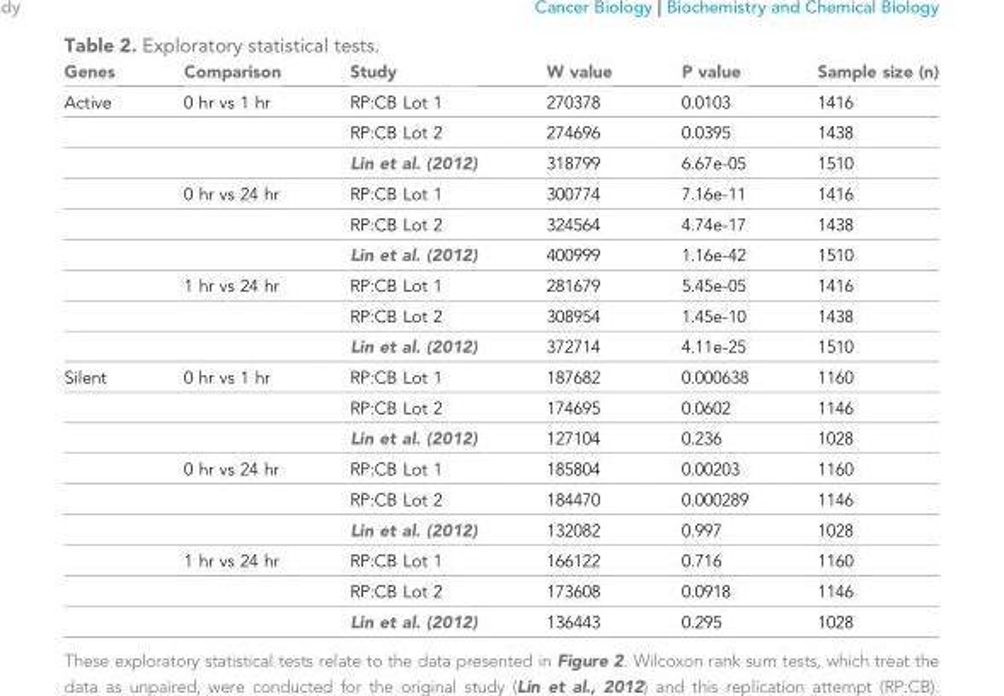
<table><thead><tr><td>Genes</td><td>Comparison</td><td>Study</td><td>W value</td><td>P value</td><td>Sample size (n)</td></tr></thead><tbody><tr><td rowspan="9">Active</td><td>0 hr vs 1 hr</td><td>RP:CB Lot 1</td><td>270378</td><td>0.0103</td><td>1416</td></tr><tr><td></td><td>RP:CB Lot 2</td><td>274696</td><td>0.0395</td><td>1438</td></tr><tr><td></td><td>Lin et al. (2012)</td><td>318799</td><td>6.67e-05</td><td>1510</td></tr><tr><td>0 hr vs 24 hr</td><td>RP:CB Lot 1</td><td>300774</td><td>7.16e-11</td><td>1416</td></tr><tr><td></td><td>RP:CB Lot 2</td><td>324564</td><td>4.74e-17</td><td>1438</td></tr><tr><td></td><td>Lin et al. (2012)</td><td>400999</td><td>1.16e-42</td><td>1510</td></tr><tr><td>1 hr vs 24 hr</td><td>RP:CB Lot 1</td><td>281679</td><td>5.45e-05</td><td>1416</td></tr><tr><td></td><td>RP:CB Lot 2</td><td>308954</td><td>1.45e-10</td><td>1438</td></tr><tr><td></td><td>Lin et al. (2012)</td><td>372714</td><td>4.11e-25</td><td>1510</td></tr><tr><td rowspan="9">Silent</td><td>0 hr vs 1 hr</td><td>RP:CB Lot 1</td><td>187682</td><td>0.000638</td><td>1160</td></tr><tr><td></td><td>RP:CB Lot 2</td><td>174695</td><td>0.0602</td><td>1146</td></tr><tr><td></td><td>Lin et al. (2012)</td><td>127104</td><td>0.236</td><td>1028</td></tr><tr><td>0 hr vs 24 hr</td><td>RP:CB Lot 1</td><td>185804</td><td>0.00203</td><td>1160</td></tr><tr><td></td><td>RP:CB Lot 2</td><td>184470</td><td>0.000289</td><td>1146</td></tr><tr><td></td><td>Lin et al. (2012)</td><td>132082</td><td>0.997</td><td>1028</td></tr><tr><td>1 hr vs 24 hr</td><td>RP:CB Lot 1</td><td>166122</td><td>0.716</td><td>1160</td></tr><tr><td></td><td>RP:CB Lot 2</td><td>173608</td><td>0.0918</td><td>1146</td></tr><tr><td></td><td>Lin et al. (2012)</td><td>136443</td><td>0.295</td><td>1028</td></tr></tbody></table>